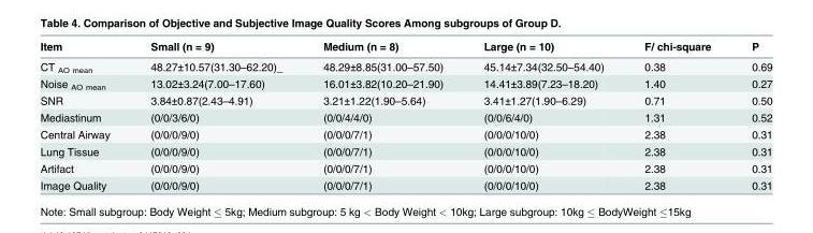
<table><thead><tr><td>Item</td><td>Small (n = 9)</td><td>Medium (n = 8)</td><td>Large (n = 10)</td><td>F/ chi-square</td><td>P</td></tr></thead><tbody><tr><td>CT <sub>AO mean</sub></td><td>48.27±10.57(31.30–62.20)_</td><td>48.29±8.85(31.00–57.50)</td><td>45.14±7.34(32.50–54.40)</td><td>0.38</td><td>0.69</td></tr><tr><td>Noise <sub>AO mean</sub></td><td>13.02±3.24(7.00–17.60)</td><td>16.01±3.82(10.20–21.90)</td><td>14.41±3.89(7.23–18.20)</td><td>1.40</td><td>0.27</td></tr><tr><td>SNR</td><td>3.84±0.87(2.43–4.91)</td><td>3.21±1.22(1.90–5.64)</td><td>3.41±1.27(1.90–6.29)</td><td>0.71</td><td>0.50</td></tr><tr><td>Mediastinum</td><td>(0/0/3/6/0)</td><td>(0/0/4/4/0)</td><td>(0/0/6/4/0)</td><td>1.31</td><td>0.52</td></tr><tr><td>Central Airway</td><td>(0/0/0/9/0)</td><td>(0/0/0/7/1)</td><td>(0/0/0/10/0)</td><td>2.38</td><td>0.31</td></tr><tr><td>Lung Tissue</td><td>(0/0/0/9/0)</td><td>(0/0/0/7/1)</td><td>(0/0/0/10/0)</td><td>2.38</td><td>0.31</td></tr><tr><td>Artifact</td><td>(0/0/0/9/0)</td><td>(0/0/0/7/1)</td><td>(0/0/0/10/0)</td><td>2.38</td><td>0.31</td></tr><tr><td>Image Quality</td><td>(0/0/0/9/0)</td><td>(0/0/0/7/1)</td><td>(0/0/0/10/0)</td><td>2.38</td><td>0.31</td></tr></tbody></table>